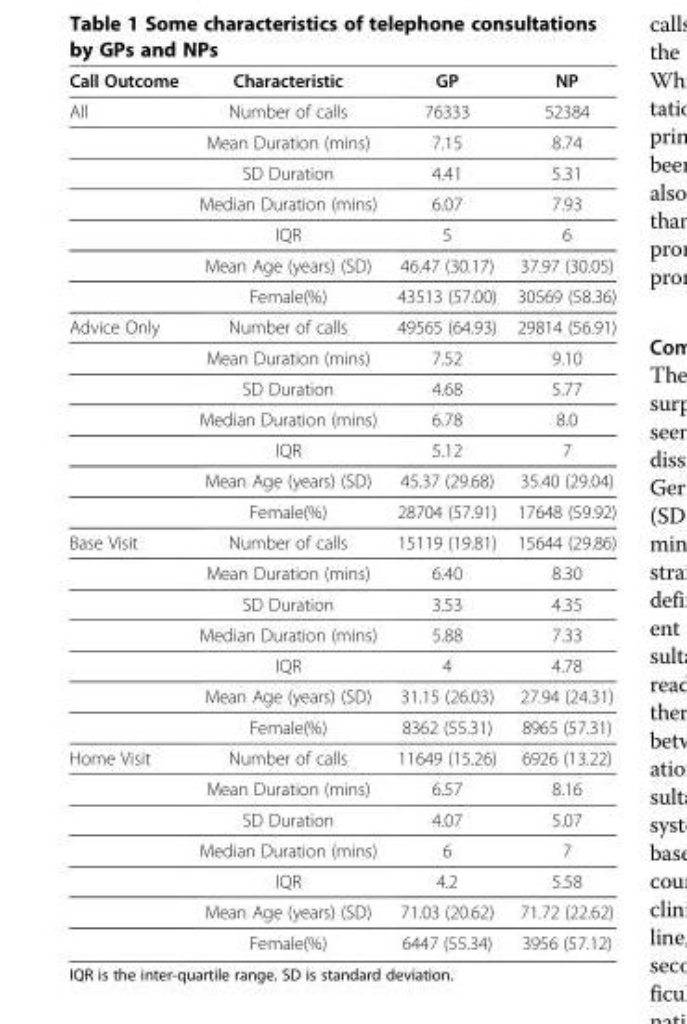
<table><thead><tr><td>Call Outcome</td><td>Characteristic</td><td>GP</td><td>NP</td></tr></thead><tbody><tr><td rowspan="7">All</td><td>Number of calls</td><td>76333</td><td>52384</td></tr><tr><td>Mean Duration (mins)</td><td>7.15</td><td>8.74</td></tr><tr><td>SD Duration</td><td>4.41</td><td>5.31</td></tr><tr><td>Median Duration (mins)</td><td>6.07</td><td>7.93</td></tr><tr><td>IQR</td><td>5</td><td>6</td></tr><tr><td>Mean Age (years) (SD)</td><td>46.47 (30.17)</td><td>37.97 (30.05)</td></tr><tr><td>Female(%)</td><td>43513 (57.00)</td><td>30569 (58.36)</td></tr><tr><td rowspan="7">Advice Only</td><td>Number of calls</td><td>49565 (64.93)</td><td>29814 (56.91)</td></tr><tr><td>Mean Duration (mins)</td><td>7.52</td><td>9.10</td></tr><tr><td>SD Duration</td><td>4.68</td><td>5.77</td></tr><tr><td>Median Duration (mins)</td><td>6.78</td><td>8.0</td></tr><tr><td>IQR</td><td>5.12</td><td>7</td></tr><tr><td>Mean Age (years) (SD)</td><td>45.37 (29.68)</td><td>35.40 (29.04)</td></tr><tr><td>Female(%)</td><td>28704 (57.91)</td><td>17648 (59.92)</td></tr><tr><td rowspan="7">Base Visit</td><td>Number of calls</td><td>15119 (19.81)</td><td>15644 (29.86)</td></tr><tr><td>Mean Duration (mins)</td><td>6.40</td><td>8.30</td></tr><tr><td>SD Duration</td><td>3.53</td><td>4.35</td></tr><tr><td>Median Duration (mins)</td><td>5.88</td><td>7.33</td></tr><tr><td>IQR</td><td>4</td><td>4.78</td></tr><tr><td>Mean Age (years) (SD)</td><td>31.15 (26.03)</td><td>27.94 (24.31)</td></tr><tr><td>Female(%)</td><td>8362 (55.31)</td><td>8965 (57.31)</td></tr><tr><td rowspan="7">Home Visit</td><td>Number of calls</td><td>11649 (15.26)</td><td>6926 (13.22)</td></tr><tr><td>Mean Duration (mins)</td><td>6.57</td><td>8.16</td></tr><tr><td>SD Duration</td><td>4.07</td><td>5.07</td></tr><tr><td>Median Duration (mins)</td><td>6</td><td>7</td></tr><tr><td>IQR</td><td>4.2</td><td>5.58</td></tr><tr><td>Mean Age (years) (SD)</td><td>71.03 (20.62)</td><td>71.72 (22.62)</td></tr><tr><td>Female(%)</td><td>6447 (55.34)</td><td>3956 (57.12)</td></tr></tbody></table>